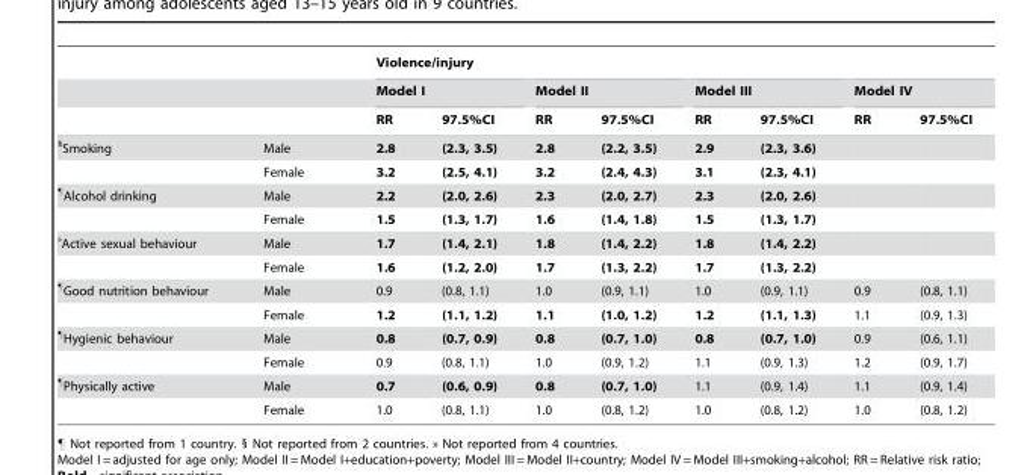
<table><thead><tr><td rowspan="3"></td><td rowspan="3"></td><td colspan="8">Violence/injury</td></tr><tr><td colspan="2">Model I</td><td colspan="2">Model II</td><td colspan="2">Model III</td><td colspan="2">Model IV</td></tr><tr><td>RR</td><td>97.5%CI</td><td>RR</td><td>97.5%CI</td><td>RR</td><td>97.5%CI</td><td>RR</td><td>97.5%CI</td></tr></thead><tbody><tr><td rowspan="2"><sup>§</sup>Smoking</td><td>Male</td><td>2.8</td><td>(2.3, 3.5)</td><td>2.8</td><td>(2.2, 3.5)</td><td>2.9</td><td>(2.3, 3.6)</td><td></td><td></td></tr><tr><td>Female</td><td>3.2</td><td>(2.5, 4.1)</td><td>3.2</td><td>(2.4, 4.3)</td><td>3.1</td><td>(2.3, 4.1)</td><td></td><td></td></tr><tr><td rowspan="2"><sup>¶</sup>Alcohol drinking</td><td>Male</td><td>2.2</td><td>(2.0, 2.6)</td><td>2.3</td><td>(2.0, 2.7)</td><td>2.3</td><td>(2.0, 2.6)</td><td></td><td></td></tr><tr><td>Female</td><td>1.5</td><td>(1.3, 1.7)</td><td>1.6</td><td>(1.4, 1.8)</td><td>1.5</td><td>(1.3, 1.7)</td><td></td><td></td></tr><tr><td rowspan="2"><sup>»</sup>Active sexual behaviour</td><td>Male</td><td>1.7</td><td>(1.4, 2.1)</td><td>1.8</td><td>(1.4, 2.2)</td><td>1.8</td><td>(1.4, 2.2)</td><td></td><td></td></tr><tr><td>Female</td><td>1.6</td><td>(1.2, 2.0)</td><td>1.7</td><td>(1.3, 2.2)</td><td>1.7</td><td>(1.3, 2.2)</td><td></td><td></td></tr><tr><td rowspan="2"><sup>¶</sup>Good nutrition behaviour</td><td>Male</td><td>0.9</td><td>(0.8, 1.1)</td><td>1.0</td><td>(0.9, 1.1)</td><td>1.0</td><td>(0.9, 1.1)</td><td>0.9</td><td>(0.8, 1.1)</td></tr><tr><td>Female</td><td>1.2</td><td>(1.1, 1.2)</td><td>1.1</td><td>(1.0, 1.2)</td><td>1.2</td><td>(1.1, 1.3)</td><td>1.1</td><td>(0.9, 1.3)</td></tr><tr><td rowspan="2"><sup>¶</sup>Hygienic behaviour</td><td>Male</td><td>0.8</td><td>(0.7, 0.9)</td><td>0.8</td><td>(0.7, 1.0)</td><td>0.8</td><td>(0.7, 1.0)</td><td>0.9</td><td>(0.6, 1.1)</td></tr><tr><td>Female</td><td>0.9</td><td>(0.8, 1.1)</td><td>1.0</td><td>(0.9, 1.2)</td><td>1.1</td><td>(0.9, 1.3)</td><td>1.2</td><td>(0.9, 1.7)</td></tr><tr><td rowspan="2"><sup>¶</sup>Physically active</td><td>Male</td><td>0.7</td><td>(0.6, 0.9)</td><td>0.8</td><td>(0.7, 1.0)</td><td>1.1</td><td>(0.9, 1.4)</td><td>1.1</td><td>(0.9, 1.4)</td></tr><tr><td>Female</td><td>1.0</td><td>(0.8, 1.1)</td><td>1.0</td><td>(0.8, 1.2)</td><td>1.0</td><td>(0.8, 1.2)</td><td>1.0</td><td>(0.8, 1.2)</td></tr></tbody></table>